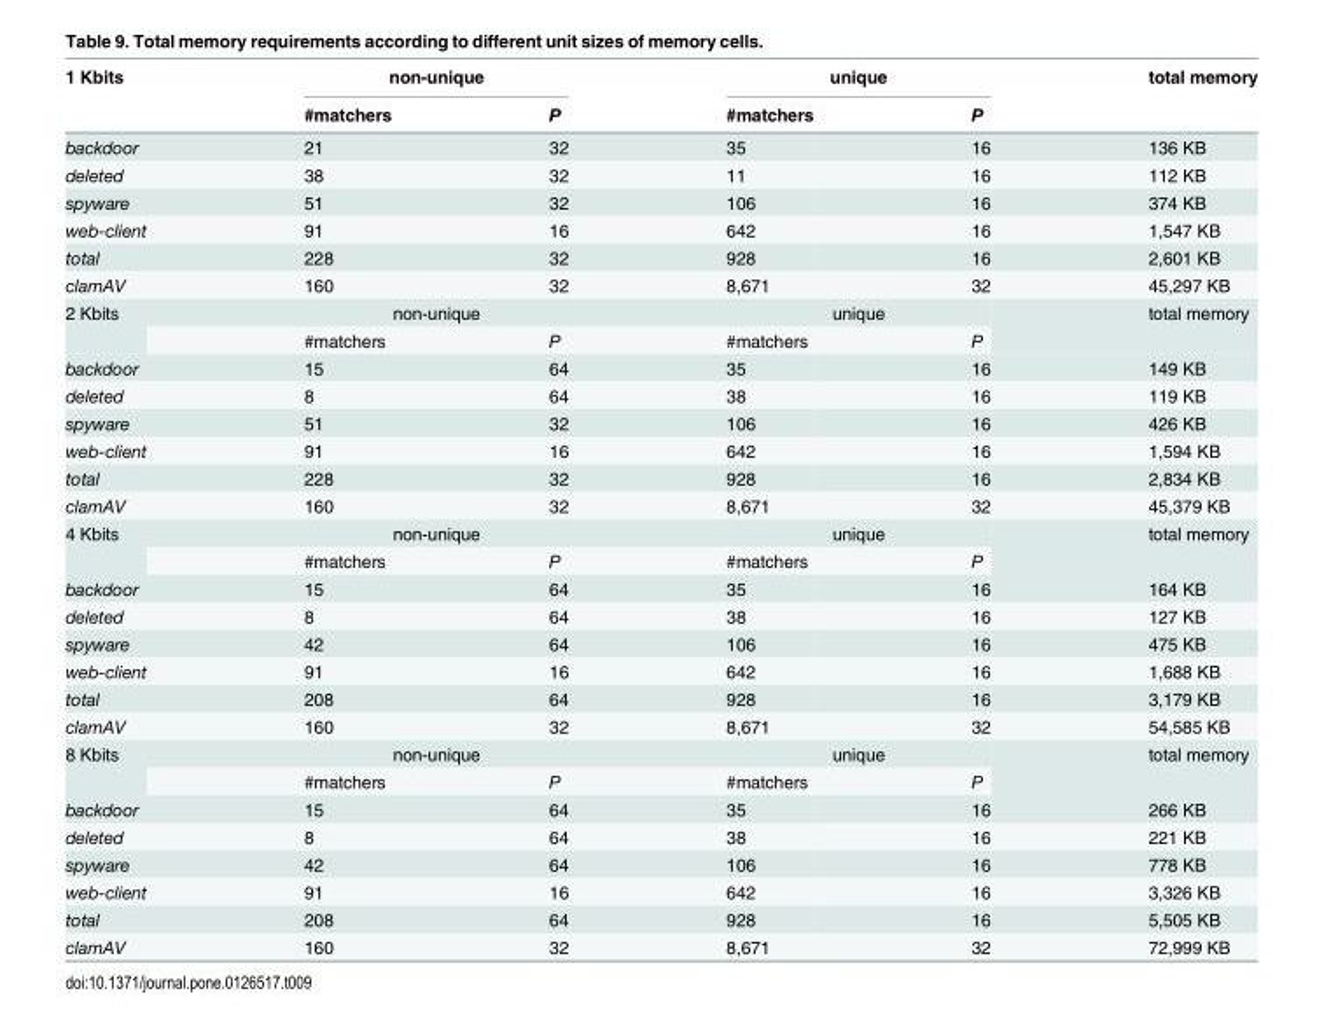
<table><thead><tr><td rowspan="2">1 Kbits</td><td colspan="2">non-unique</td><td colspan="2">unique</td><td rowspan="2">total memory</td></tr><tr><td>#matchers</td><td>P</td><td>#matchers</td><td>P</td></tr></thead><tbody><tr><td>backdoor</td><td>21</td><td>32</td><td>35</td><td>16</td><td>136 KB</td></tr><tr><td>deleted</td><td>38</td><td>32</td><td>11</td><td>16</td><td>112 KB</td></tr><tr><td>spyware</td><td>51</td><td>32</td><td>106</td><td>16</td><td>374 KB</td></tr><tr><td>web-client</td><td>91</td><td>16</td><td>642</td><td>16</td><td>1,547 KB</td></tr><tr><td>total</td><td>228</td><td>32</td><td>928</td><td>16</td><td>2,601 KB</td></tr><tr><td>clamAV</td><td>160</td><td>32</td><td>8,671</td><td>32</td><td>45,297 KB</td></tr><tr><td rowspan="2">2 Kbits</td><td colspan="2">non-unique</td><td colspan="2">unique</td><td rowspan="2">total memory</td></tr><tr><td>#matchers</td><td>P</td><td>#matchers</td><td>P</td></tr><tr><td>backdoor</td><td>15</td><td>64</td><td>35</td><td>16</td><td>149 KB</td></tr><tr><td>deleted</td><td>8</td><td>64</td><td>38</td><td>16</td><td>119 KB</td></tr><tr><td>spyware</td><td>51</td><td>32</td><td>106</td><td>16</td><td>426 KB</td></tr><tr><td>web-client</td><td>91</td><td>16</td><td>642</td><td>16</td><td>1,594 KB</td></tr><tr><td>total</td><td>228</td><td>32</td><td>928</td><td>16</td><td>2,834 KB</td></tr><tr><td>clamAV</td><td>160</td><td>32</td><td>8,671</td><td>32</td><td>45,379 KB</td></tr><tr><td rowspan="2">4 Kbits</td><td colspan="2">non-unique</td><td colspan="2">unique</td><td rowspan="2">total memory</td></tr><tr><td>#matchers</td><td>P</td><td>#matchers</td><td>P</td></tr><tr><td>backdoor</td><td>15</td><td>64</td><td>35</td><td>16</td><td>164 KB</td></tr><tr><td>deleted</td><td>8</td><td>64</td><td>38</td><td>16</td><td>127 KB</td></tr><tr><td>spyware</td><td>42</td><td>64</td><td>106</td><td>16</td><td>475 KB</td></tr><tr><td>web-client</td><td>91</td><td>16</td><td>642</td><td>16</td><td>1,688 KB</td></tr><tr><td>total</td><td>208</td><td>64</td><td>928</td><td>16</td><td>3,179 KB</td></tr><tr><td>clamAV</td><td>160</td><td>32</td><td>8,671</td><td>32</td><td>54,585 KB</td></tr><tr><td rowspan="2">8 Kbits</td><td colspan="2">non-unique</td><td colspan="2">unique</td><td rowspan="2">total memory</td></tr><tr><td>#matchers</td><td>P</td><td>#matchers</td><td>P</td></tr><tr><td>backdoor</td><td>15</td><td>64</td><td>35</td><td>16</td><td>266 KB</td></tr><tr><td>deleted</td><td>8</td><td>64</td><td>38</td><td>16</td><td>221 KB</td></tr><tr><td>spyware</td><td>42</td><td>64</td><td>106</td><td>16</td><td>778 KB</td></tr><tr><td>web-client</td><td>91</td><td>16</td><td>642</td><td>16</td><td>3,326 KB</td></tr><tr><td>total</td><td>208</td><td>64</td><td>928</td><td>16</td><td>5,505 KB</td></tr><tr><td>clamAV</td><td>160</td><td>32</td><td>8,671</td><td>32</td><td>72,999 KB</td></tr></tbody></table>